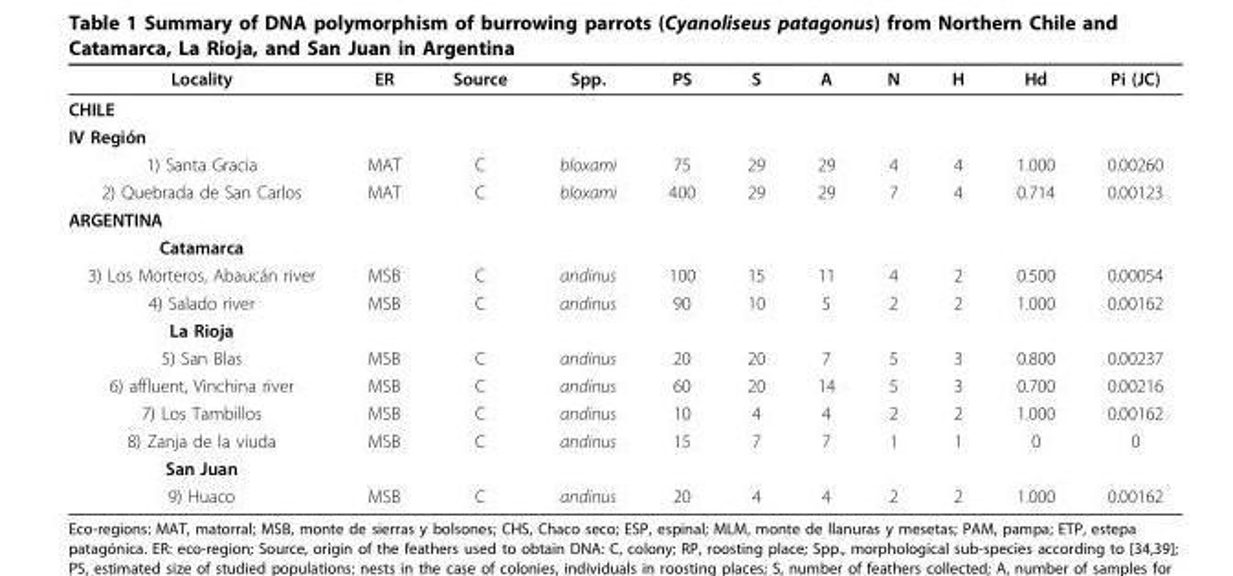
<table><thead><tr><td>Locality</td><td>ER</td><td>Source</td><td>Spp.</td><td>PS</td><td>S</td><td>A</td><td>N</td><td>H</td><td>Hd</td><td>Pi (JC)</td></tr></thead><tbody><tr><td colspan="11">CHILE</td></tr><tr><td colspan="11">IV Región</td></tr><tr><td>1) Santa Gracia</td><td>MAT</td><td>C</td><td>bloxami</td><td>75</td><td>29</td><td>29</td><td>4</td><td>4</td><td>1.000</td><td>0.00260</td></tr><tr><td>2) Quebrada de San Carlos</td><td>MAT</td><td>C</td><td>bloxami</td><td>400</td><td>29</td><td>29</td><td>7</td><td>4</td><td>0.714</td><td>0.00123</td></tr><tr><td colspan="11">ARGENTINA</td></tr><tr><td colspan="11">Catamarca</td></tr><tr><td>3) Los Morteros, Abaucán river</td><td>MSB</td><td>C</td><td>andinus</td><td>100</td><td>15</td><td>11</td><td>4</td><td>2</td><td>0.500</td><td>0.00054</td></tr><tr><td>4) Salado river</td><td>MSB</td><td>C</td><td>andinus</td><td>90</td><td>10</td><td>5</td><td>2</td><td>2</td><td>1.000</td><td>0.00162</td></tr><tr><td colspan="11">La Rioja</td></tr><tr><td>5) San Blas</td><td>MSB</td><td>C</td><td>andinus</td><td>20</td><td>20</td><td>7</td><td>5</td><td>3</td><td>0.800</td><td>0.00237</td></tr><tr><td>6) affluent, Vinchina river</td><td>MSB</td><td>C</td><td>andinus</td><td>60</td><td>20</td><td>14</td><td>5</td><td>3</td><td>0.700</td><td>0.00216</td></tr><tr><td>7) Los Tambillos</td><td>MSB</td><td>C</td><td>andinus</td><td>10</td><td>4</td><td>4</td><td>2</td><td>2</td><td>1.000</td><td>0.00162</td></tr><tr><td>8) Zanja de la viuda</td><td>MSB</td><td>C</td><td>andinus</td><td>15</td><td>7</td><td>7</td><td>1</td><td>1</td><td>0</td><td>0</td></tr><tr><td colspan="11">San Juan</td></tr><tr><td>9) Huaco</td><td>MSB</td><td>C</td><td>andinus</td><td>20</td><td>4</td><td>4</td><td>2</td><td>2</td><td>1.000</td><td>0.00162</td></tr></tbody></table>